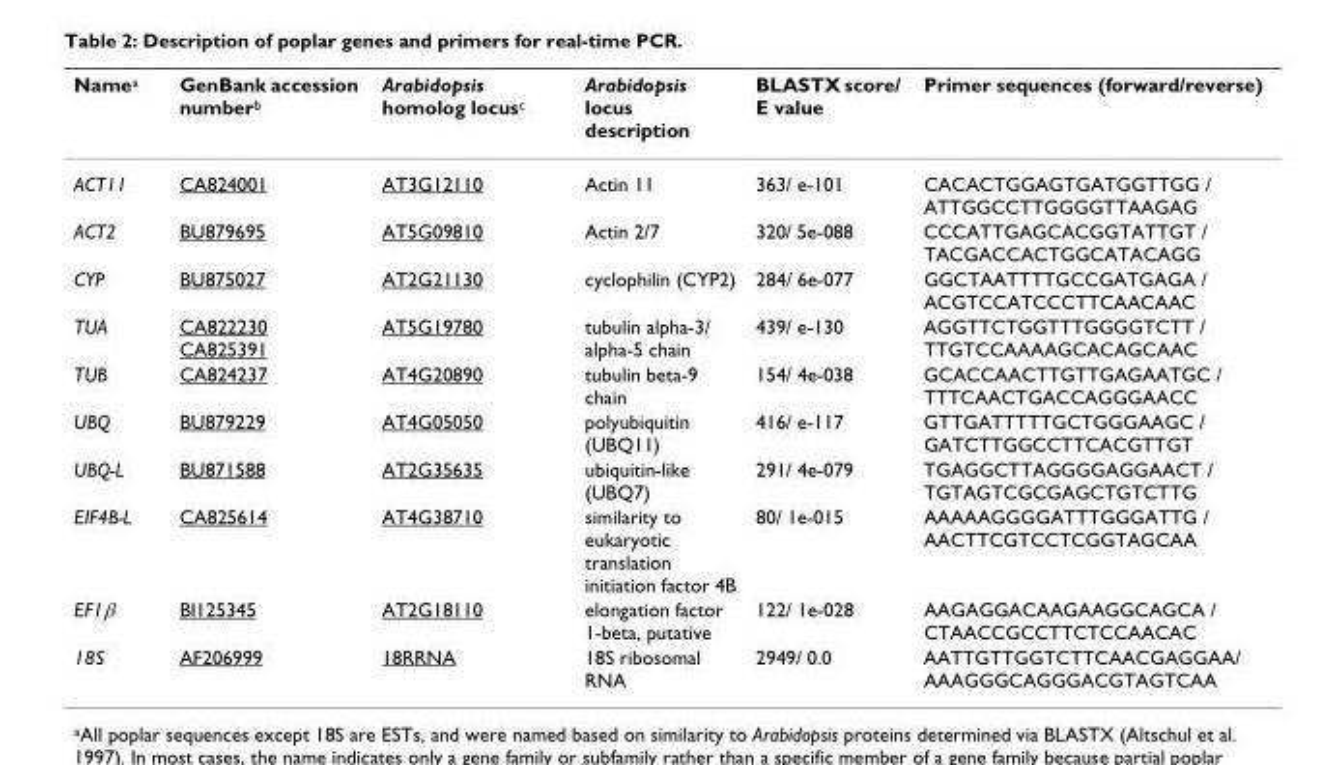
<table><thead><tr><td>Namea</td><td>GenBank accession numberb</td><td>Arabidopsis homolog locusc</td><td>Arabidopsis locus description</td><td>BLASTX score/ E value</td><td>Primer sequences (forward/reverse)</td></tr></thead><tbody><tr><td>ACT11</td><td>CA824001</td><td>AT3G12110</td><td>Actin 11</td><td>363/ e-101</td><td>CACACTGGAGTGATGGTTGG / ATTGGCCTTGGGGTTAAGAG</td></tr><tr><td>ACT2</td><td>BU879695</td><td>AT5G09810</td><td>Actin 2/7</td><td>320/ 5e-088</td><td>CCCATTGAGCACGGTATTGT / TACGACCACTGGCATACAGG</td></tr><tr><td>CYP</td><td>BU875027</td><td>AT2G21130</td><td>cyclophilin (CYP2)</td><td>284/ 6e-077</td><td>GGCTAATTTTGCCGATGAGA / ACGTCCATCCCTTCAACAAC</td></tr><tr><td>TUA</td><td>CA822230 CA825391</td><td>AT5G19780</td><td>tubulin alpha-3/ alpha-5 chain</td><td>439/ e-130</td><td>AGGTTCTGGTTTGGGGTCTT / TTGTCCAAAAGCACAGCAAC</td></tr><tr><td>TUB</td><td>CA824237</td><td>AT4G20890</td><td>tubulin beta-9 chain</td><td>154/ 4e-038</td><td>GCACCAACTTGTTGAGAATGC / TTTCAACTGACCAGGGAACC</td></tr><tr><td>UBQ</td><td>BU879229</td><td>AT4G05050</td><td>polyubiquitin (UBQ11)</td><td>416/ e-117</td><td>GTTGATTTTTGCTGGGAAGC / GATCTTGGCCTTCACGTTGT</td></tr><tr><td>UBQ-L</td><td>BU871588</td><td>AT2G35635</td><td>ubiquitin-like (UBQ7)</td><td>291/ 4e-079</td><td>TGAGGCTTAGGGGAGGAACT / TGTAGTCGCGAGCTGTCTTG</td></tr><tr><td>EIF4B-L</td><td>CA825614</td><td>AT4G38710</td><td>similarity to eukaryotic translation initiation factor 4B</td><td>80/ 1e-015</td><td>AAAAAGGGGATTTGGGATTG / AACTTCGTCCTCGGTAGCAA</td></tr><tr><td>EF1β</td><td>BI125345</td><td>AT2G18110</td><td>elongation factor 1-beta, putative</td><td>122/ 1e-028</td><td>AAGAGGACAAGAAGGCAGCA / CTAACCGCCTTCTCCAACAC</td></tr><tr><td>18S</td><td>AF206999</td><td>18RRNA</td><td>18S ribosomal RNA</td><td>2949/ 0.0</td><td>AATTGTTGGTCTTCAACGAGGAA/ AAAGGGCAGGGACGTAGTCAA</td></tr></tbody></table>